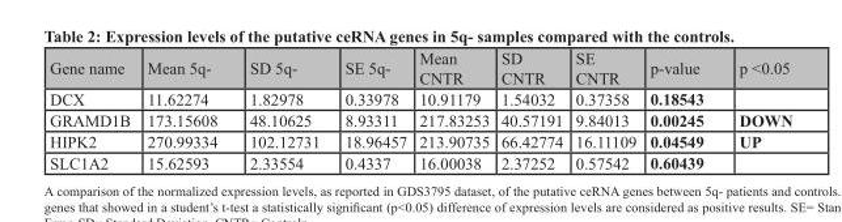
<table><thead><tr><td>Gene name</td><td>Mean 5q-</td><td>SD 5q-</td><td>SE 5q-</td><td>Mean CNTR</td><td>SD CNTR</td><td>SE CNTR</td><td>p-value</td><td>p &lt;0.05</td></tr></thead><tbody><tr><td>DCX</td><td>11.62274</td><td>1.82978</td><td>0.33978</td><td>10.91179</td><td>1.54032</td><td>0.37358</td><td>0.18543</td><td></td></tr><tr><td>GRAMD1B</td><td>173.15608</td><td>48.10625</td><td>8.93311</td><td>217.83253</td><td>40.57191</td><td>9.84013</td><td>0.00245</td><td>DOWN</td></tr><tr><td>HIPK2</td><td>270.99334</td><td>102.12731</td><td>18.96457</td><td>213.90735</td><td>66.42774</td><td>16.11109</td><td>0.04549</td><td>UP</td></tr><tr><td>SLC1A2</td><td>15.62593</td><td>2.33554</td><td>0.4337</td><td>16.00038</td><td>2.37252</td><td>0.57542</td><td>0.60439</td><td></td></tr></tbody></table>